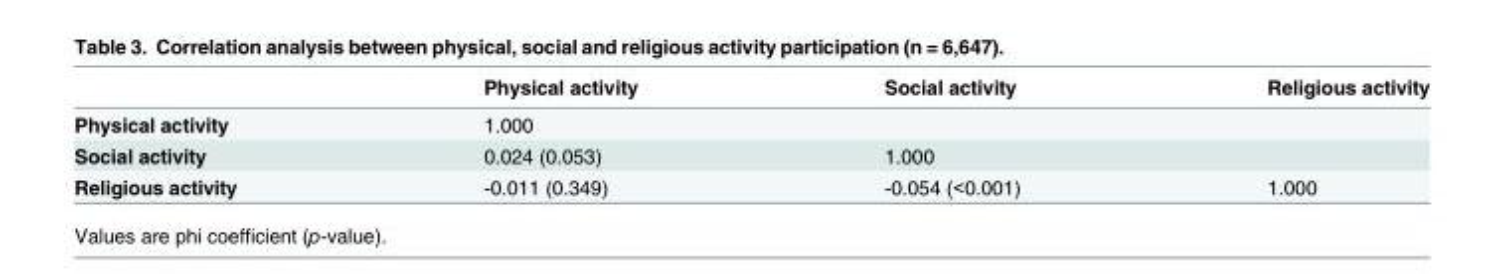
<table><thead><tr><td></td><td>Physical activity</td><td>Social activity</td><td>Religious activity</td></tr></thead><tbody><tr><td>Physical activity</td><td>1.000</td><td></td><td></td></tr><tr><td>Social activity</td><td>0.024 (0.053)</td><td>1.000</td><td></td></tr><tr><td>Religious activity</td><td>-0.011 (0.349)</td><td>-0.054 (&lt;0.001)</td><td>1.000</td></tr></tbody></table>